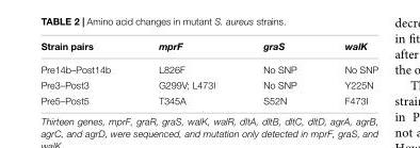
<table><thead><tr><td>Strain pairs</td><td>mprF</td><td>graS</td><td>walK</td></tr></thead><tbody><tr><td>Pre14b–Post14b</td><td>L826F</td><td>No SNP</td><td>No SNP</td></tr><tr><td>Pre3–Post3</td><td>G299V; L473I</td><td>No SNP</td><td>Y225N</td></tr><tr><td>Pre5–Post5</td><td>T345A</td><td>S52N</td><td>F473I</td></tr></tbody></table>